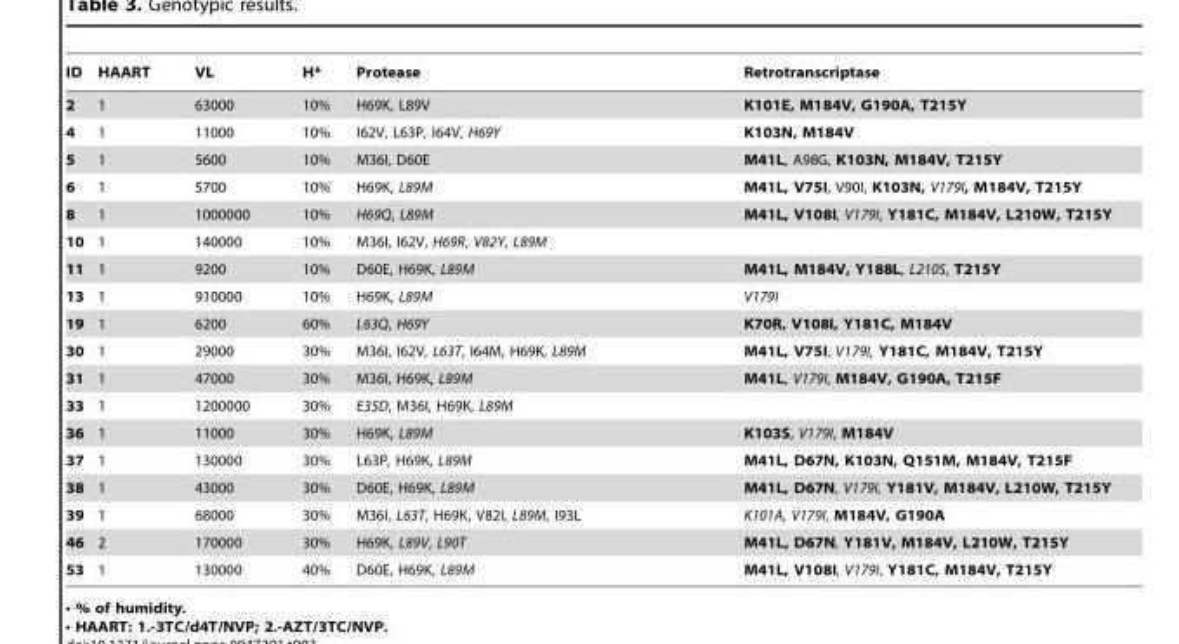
<table><thead><tr><td>ID</td><td>HAART</td><td>VL</td><td>H*</td><td>Protease</td><td>Retrotranscriptase</td></tr></thead><tbody><tr><td>2</td><td>1</td><td>63000</td><td>10%</td><td>H69K, L89V</td><td>K101E, M184V, G190A, T215Y</td></tr><tr><td>4</td><td>1</td><td>11000</td><td>10%</td><td>I62V, L63P, I64V, H69Y</td><td>K103N, M184V</td></tr><tr><td>5</td><td>1</td><td>5600</td><td>10%</td><td>M36I, D60E</td><td>M41L, A98G, K103N, M184V, T215Y</td></tr><tr><td>6</td><td>1</td><td>5700</td><td>10%</td><td>H69K, L89M</td><td>M41L, V75I, V90I, K103N, V179I, M184V, T215Y</td></tr><tr><td>8</td><td>1</td><td>1000000</td><td>10%</td><td>H69Q, L89M</td><td>M41L, V108I, V179I, Y181C, M184V, L210W, T215Y</td></tr><tr><td>10</td><td>1</td><td>140000</td><td>10%</td><td>M36I, I62V, H69R, V82Y, L89M</td><td></td></tr><tr><td>11</td><td>1</td><td>9200</td><td>10%</td><td>D60E, H69K, L89M</td><td>M41L, M184V, Y188L, L210S, T215Y</td></tr><tr><td>13</td><td>1</td><td>910000</td><td>10%</td><td>H69K, L89M</td><td>V179I</td></tr><tr><td>19</td><td>1</td><td>6200</td><td>60%</td><td>L63Q, H69Y</td><td>K70R, V108I, Y181C, M184V</td></tr><tr><td>30</td><td>1</td><td>29000</td><td>30%</td><td>M36I, I62V, L63T, I64M, H69K, L89M</td><td>M41L, V75I, V179I, Y181C, M184V, T215Y</td></tr><tr><td>31</td><td>1</td><td>47000</td><td>30%</td><td>M36I, H69K, L89M</td><td>M41L, V179I, M184V, G190A, T215F</td></tr><tr><td>33</td><td>1</td><td>1200000</td><td>30%</td><td>E35D, M36I, H69K, L89M</td><td></td></tr><tr><td>36</td><td>1</td><td>11000</td><td>30%</td><td>H69K, L89M</td><td>K103S, V179I, M184V</td></tr><tr><td>37</td><td>1</td><td>130000</td><td>30%</td><td>L63P, H69K, L89M</td><td>M41L, D67N, K103N, Q151M, M184V, T215F</td></tr><tr><td>38</td><td>1</td><td>43000</td><td>30%</td><td>D60E, H69K, L89M</td><td>M41L, D67N, V179I, Y181V, M184V, L210W, T215Y</td></tr><tr><td>39</td><td>1</td><td>68000</td><td>30%</td><td>M36I, L63T, H69K, V82I, L89M, I93L</td><td>K101A, V179I, M184V, G190A</td></tr><tr><td>46</td><td>2</td><td>170000</td><td>30%</td><td>H69K, L89V, L90T</td><td>M41L, D67N, Y181V, M184V, L210W, T215Y</td></tr><tr><td>53</td><td>1</td><td>130000</td><td>40%</td><td>D60E, H69K, L89M</td><td>M41L, V108I, V179I, Y181C, M184V, T215Y</td></tr></tbody></table>